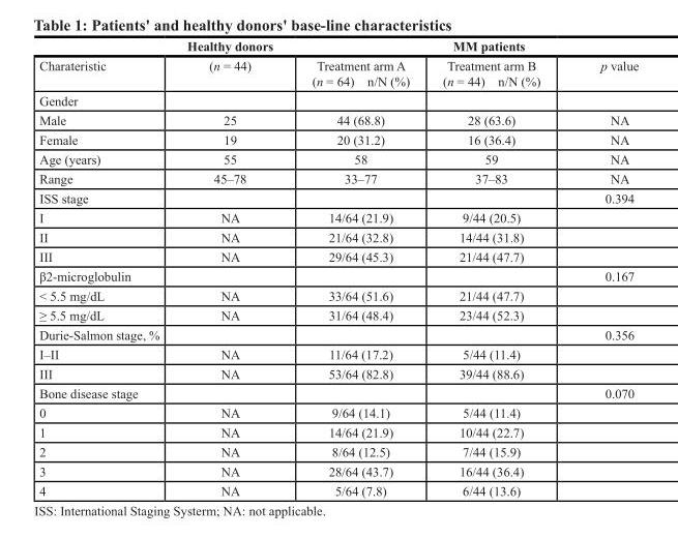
<table><thead><tr><td></td><td>Healthy donors</td><td></td><td>MM patients</td><td></td></tr></thead><tbody><tr><td>Charateristic</td><td>(n = 44)</td><td>Treatment arm A (n = 64) n/N (%)</td><td>Treatment arm B (n = 44) n/N (%)</td><td>p value</td></tr><tr><td colspan="5">Gender</td></tr><tr><td>Male</td><td>25</td><td>44 (68.8)</td><td>28 (63.6)</td><td>NA</td></tr><tr><td>Female</td><td>19</td><td>20 (31.2)</td><td>16 (36.4)</td><td>NA</td></tr><tr><td>Age (years)</td><td>55</td><td>58</td><td>59</td><td>NA</td></tr><tr><td>Range</td><td>45–78</td><td>33–77</td><td>37–83</td><td>NA</td></tr><tr><td>ISS stage</td><td></td><td></td><td></td><td>0.394</td></tr><tr><td>I</td><td>NA</td><td>14/64 (21.9)</td><td>9/44 (20.5)</td><td></td></tr><tr><td>II</td><td>NA</td><td>21/64 (32.8)</td><td>14/44 (31.8)</td><td></td></tr><tr><td>III</td><td>NA</td><td>29/64 (45.3)</td><td>21/44 (47.7)</td><td></td></tr><tr><td>β2-microglobulin</td><td></td><td></td><td></td><td>0.167</td></tr><tr><td>&lt; 5.5 mg/dL</td><td>NA</td><td>33/64 (51.6)</td><td>21/44 (47.7)</td><td></td></tr><tr><td>≥ 5.5 mg/dL</td><td>NA</td><td>31/64 (48.4)</td><td>23/44 (52.3)</td><td></td></tr><tr><td>Durie-Salmon stage, %</td><td></td><td></td><td></td><td>0.356</td></tr><tr><td>I–II</td><td>NA</td><td>11/64 (17.2)</td><td>5/44 (11.4)</td><td></td></tr><tr><td>III</td><td>NA</td><td>53/64 (82.8)</td><td>39/44 (88.6)</td><td></td></tr><tr><td>Bone disease stage</td><td></td><td></td><td></td><td>0.070</td></tr><tr><td>0</td><td>NA</td><td>9/64 (14.1)</td><td>5/44 (11.4)</td><td></td></tr><tr><td>1</td><td>NA</td><td>14/64 (21.9)</td><td>10/44 (22.7)</td><td></td></tr><tr><td>2</td><td>NA</td><td>8/64 (12.5)</td><td>7/44 (15.9)</td><td></td></tr><tr><td>3</td><td>NA</td><td>28/64 (43.7)</td><td>16/44 (36.4)</td><td></td></tr><tr><td>4</td><td>NA</td><td>5/64 (7.8)</td><td>6/44 (13.6)</td><td></td></tr></tbody></table>